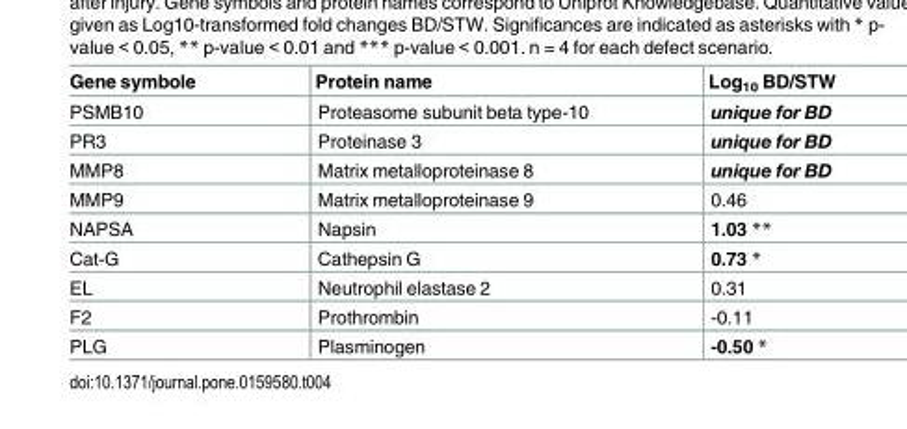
<table><thead><tr><td>Gene symbole</td><td>Protein name</td><td>Log<sub>10</sub> BD/STW</td></tr></thead><tbody><tr><td>PSMB10</td><td>Proteasome subunit beta type-10</td><td>unique for BD</td></tr><tr><td>PR3</td><td>Proteinase 3</td><td>unique for BD</td></tr><tr><td>MMP8</td><td>Matrix metalloproteinase 8</td><td>unique for BD</td></tr><tr><td>MMP9</td><td>Matrix metalloproteinase 9</td><td>0.46</td></tr><tr><td>NAPSA</td><td>Napsin</td><td>1.03 **</td></tr><tr><td>Cat-G</td><td>Cathepsin G</td><td>0.73 *</td></tr><tr><td>EL</td><td>Neutrophil elastase 2</td><td>0.31</td></tr><tr><td>F2</td><td>Prothrombin</td><td>-0.11</td></tr><tr><td>PLG</td><td>Plasminogen</td><td>-0.50 *</td></tr></tbody></table>